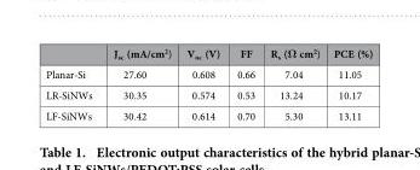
<table><thead><tr><td></td><td>J<sub>sc</sub> (mA/cm<sup>2</sup>)</td><td>V<sub>oc</sub> (V)</td><td>FF</td><td>R<sub>s</sub> (Ω cm<sup>2</sup>)</td><td>PCE (%)</td></tr></thead><tbody><tr><td>Planar-Si</td><td>27.60</td><td>0.608</td><td>0.66</td><td>7.04</td><td>11.05</td></tr><tr><td>LR-SiNWs</td><td>30.35</td><td>0.574</td><td>0.53</td><td>13.24</td><td>10.17</td></tr><tr><td>LF-SiNWs</td><td>30.42</td><td>0.614</td><td>0.70</td><td>5.30</td><td>13.11</td></tr></tbody></table>